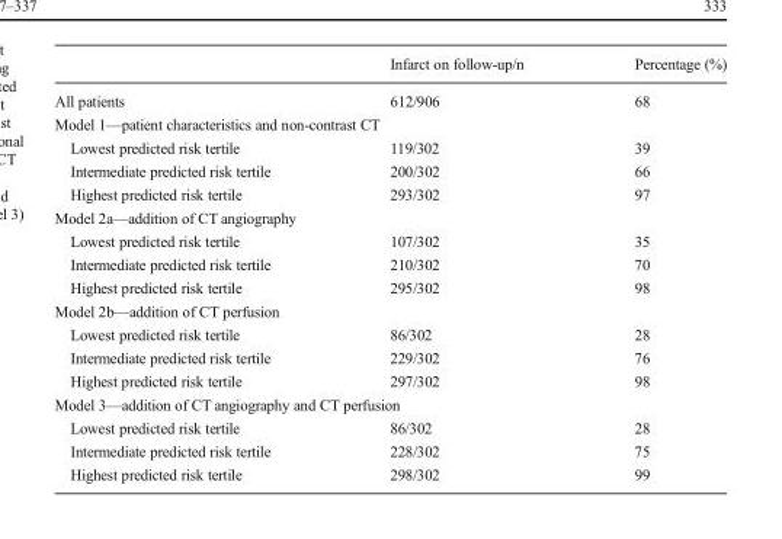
<table><thead><tr><td></td><td>Infarct on follow-up/n</td><td>Percentage (%)</td></tr></thead><tbody><tr><td>All patients</td><td>612/906</td><td>68</td></tr><tr><td colspan="3">Model 1—patient characteristics and non-contrast CT</td></tr><tr><td>Lowest predicted risk tertile</td><td>119/302</td><td>39</td></tr><tr><td>Intermediate predicted risk tertile</td><td>200/302</td><td>66</td></tr><tr><td>Highest predicted risk tertile</td><td>293/302</td><td>97</td></tr><tr><td colspan="3">Model 2a—addition of CT angiography</td></tr><tr><td>Lowest predicted risk tertile</td><td>107/302</td><td>35</td></tr><tr><td>Intermediate predicted risk tertile</td><td>210/302</td><td>70</td></tr><tr><td>Highest predicted risk tertile</td><td>295/302</td><td>98</td></tr><tr><td colspan="3">Model 2b—addition of CT perfusion</td></tr><tr><td>Lowest predicted risk tertile</td><td>86/302</td><td>28</td></tr><tr><td>Intermediate predicted risk tertile</td><td>229/302</td><td>76</td></tr><tr><td>Highest predicted risk tertile</td><td>297/302</td><td>98</td></tr><tr><td colspan="3">Model 3—addition of CT angiography and CT perfusion</td></tr><tr><td>Lowest predicted risk tertile</td><td>86/302</td><td>28</td></tr><tr><td>Intermediate predicted risk tertile</td><td>228/302</td><td>75</td></tr><tr><td>Highest predicted risk tertile</td><td>298/302</td><td>99</td></tr></tbody></table>